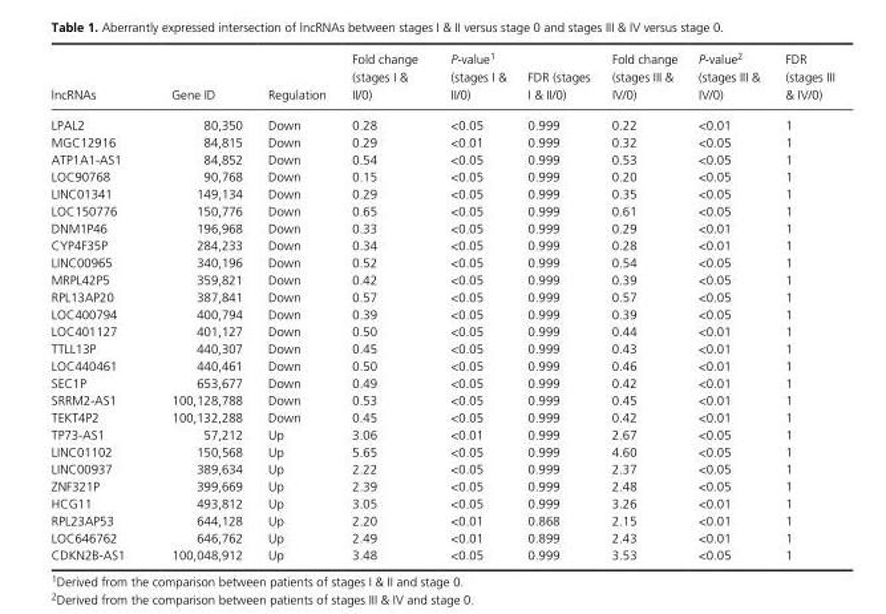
<table><thead><tr><td>lncRNAs</td><td>Gene ID</td><td>Regulation</td><td>Fold change (stages I &amp; II/0)</td><td>P- value1 (stages I &amp; II/0)</td><td>FDR (stages I &amp; II/0)</td><td>Fold change (stages III &amp; IV/0)</td><td>P- value2 (stages III &amp; IV/0)</td><td>FDR (stages III &amp; IV/0)</td></tr></thead><tbody><tr><td>LPAL2</td><td>80,350</td><td>Down</td><td>0.28</td><td>&lt;0.05</td><td>0.999</td><td>0.22</td><td>&lt;0.01</td><td>1</td></tr><tr><td>MGC12916</td><td>84,815</td><td>Down</td><td>0.29</td><td>&lt;0.01</td><td>0.999</td><td>0.32</td><td>&lt;0.05</td><td>1</td></tr><tr><td>ATP1A1- AS1</td><td>84,852</td><td>Down</td><td>0.54</td><td>&lt;0.05</td><td>0.999</td><td>0.53</td><td>&lt;0.05</td><td>1</td></tr><tr><td>LOC90768</td><td>90,768</td><td>Down</td><td>0.15</td><td>&lt;0.05</td><td>0.999</td><td>0.20</td><td>&lt;0.05</td><td>1</td></tr><tr><td>LINC01341</td><td>149,134</td><td>Down</td><td>0.29</td><td>&lt;0.05</td><td>0.999</td><td>0.35</td><td>&lt;0.05</td><td>1</td></tr><tr><td>LOC150776</td><td>150,776</td><td>Down</td><td>0.65</td><td>&lt;0.05</td><td>0.999</td><td>0.61</td><td>&lt;0.05</td><td>1</td></tr><tr><td>DNM1P46</td><td>196,968</td><td>Down</td><td>0.33</td><td>&lt;0.05</td><td>0.999</td><td>0.29</td><td>&lt;0.01</td><td>1</td></tr><tr><td>CYP4F35P</td><td>284,233</td><td>Down</td><td>0.34</td><td>&lt;0.05</td><td>0.999</td><td>0.28</td><td>&lt;0.01</td><td>1</td></tr><tr><td>LINC00965</td><td>340,196</td><td>Down</td><td>0.52</td><td>&lt;0.05</td><td>0.999</td><td>0.54</td><td>&lt;0.05</td><td>1</td></tr><tr><td>MRPL42P5</td><td>359,821</td><td>Down</td><td>0.42</td><td>&lt;0.05</td><td>0.999</td><td>0.39</td><td>&lt;0.05</td><td>1</td></tr><tr><td>RPL13AP20</td><td>387,841</td><td>Down</td><td>0.57</td><td>&lt;0.05</td><td>0.999</td><td>0.57</td><td>&lt;0.05</td><td>1</td></tr><tr><td>LOC400794</td><td>400,794</td><td>Down</td><td>0.39</td><td>&lt;0.05</td><td>0.999</td><td>0.39</td><td>&lt;0.05</td><td>1</td></tr><tr><td>LOC401127</td><td>401,127</td><td>Down</td><td>0.50</td><td>&lt;0.05</td><td>0.999</td><td>0.44</td><td>&lt;0.01</td><td>1</td></tr><tr><td>TTLL13P</td><td>440,307</td><td>Down</td><td>0.45</td><td>&lt;0.05</td><td>0.999</td><td>0.43</td><td>&lt;0.01</td><td>1</td></tr><tr><td>LOC440461</td><td>440,461</td><td>Down</td><td>0.50</td><td>&lt;0.05</td><td>0.999</td><td>0.46</td><td>&lt;0.01</td><td>1</td></tr><tr><td>SEC1P</td><td>653,677</td><td>Down</td><td>0.49</td><td>&lt;0.05</td><td>0.999</td><td>0.42</td><td>&lt;0.01</td><td>1</td></tr><tr><td>SRRM2- AS1</td><td>100,128,788</td><td>Down</td><td>0.53</td><td>&lt;0.05</td><td>0.999</td><td>0.45</td><td>&lt;0.01</td><td>1</td></tr><tr><td>TEKT4P2</td><td>100,132,288</td><td>Down</td><td>0.45</td><td>&lt;0.05</td><td>0.999</td><td>0.42</td><td>&lt;0.01</td><td>1</td></tr><tr><td>TP73- AS1</td><td>57,212</td><td>Up</td><td>3.06</td><td>&lt;0.01</td><td>0.999</td><td>2.67</td><td>&lt;0.05</td><td>1</td></tr><tr><td>LINC01102</td><td>150,568</td><td>Up</td><td>5.65</td><td>&lt;0.05</td><td>0.999</td><td>4.60</td><td>&lt;0.05</td><td>1</td></tr><tr><td>LINC00937</td><td>389,634</td><td>Up</td><td>2.22</td><td>&lt;0.05</td><td>0.999</td><td>2.37</td><td>&lt;0.05</td><td>1</td></tr><tr><td>ZNF321P</td><td>399,669</td><td>Up</td><td>2.39</td><td>&lt;0.05</td><td>0.999</td><td>2.48</td><td>&lt;0.05</td><td>1</td></tr><tr><td>HCG11</td><td>493,812</td><td>Up</td><td>3.05</td><td>&lt;0.05</td><td>0.999</td><td>3.26</td><td>&lt;0.01</td><td>1</td></tr><tr><td>RPL23AP53</td><td>644,128</td><td>Up</td><td>2.20</td><td>&lt;0.01</td><td>0.868</td><td>2.15</td><td>&lt;0.01</td><td>1</td></tr><tr><td>LOC646762</td><td>646,762</td><td>Up</td><td>2.49</td><td>&lt;0.01</td><td>0.899</td><td>2.43</td><td>&lt;0.01</td><td>1</td></tr><tr><td>CDKN2B- AS1</td><td>100,048,912</td><td>Up</td><td>3.48</td><td>&lt;0.05</td><td>0.999</td><td>3.53</td><td>&lt;0.05</td><td>1</td></tr></tbody></table>